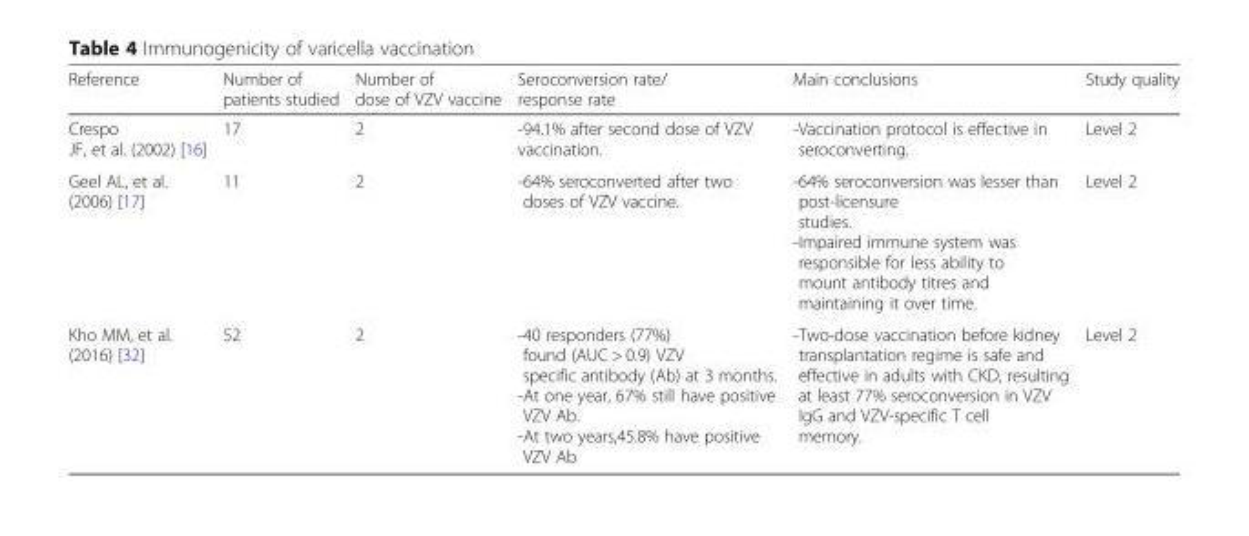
<table><thead><tr><td>Reference</td><td>Number of patients studied</td><td>Number of dose of VZV vaccine</td><td>Seroconversion rate/ response rate</td><td>Main conclusions</td><td>Study quality</td></tr></thead><tbody><tr><td>Crespo JF, et al. (2002) [16]</td><td>17</td><td>2</td><td>-94.1% after second dose of VZV vaccination.</td><td>-Vaccination protocol is effective in seroconverting.</td><td>Level 2</td></tr><tr><td>Geel AL, et al. (2006) [17]</td><td>11</td><td>2</td><td>-64% seroconverted after two doses of VZV vaccine.</td><td>-64% seroconversion was lesser than post-licensure studies. -Impaired immune system was responsible for less ability to mount antibody titres and maintaining it over time.</td><td>Level 2</td></tr><tr><td>Kho MM, et al. (2016) [32]</td><td>52</td><td>2</td><td>-40 responders (77%) found (AUC &gt; 0.9) VZV specific antibody (Ab) at 3 months. -At one year, 67% still have positive VZV Ab. -At two years,45.8% have positive VZV Ab</td><td>-Two-dose vaccination before kidney transplantation regime is safe and effective in adults with CKD, resulting at least 77% seroconversion in VZV IgG and VZV-specific T cell memory.</td><td>Level 2</td></tr></tbody></table>